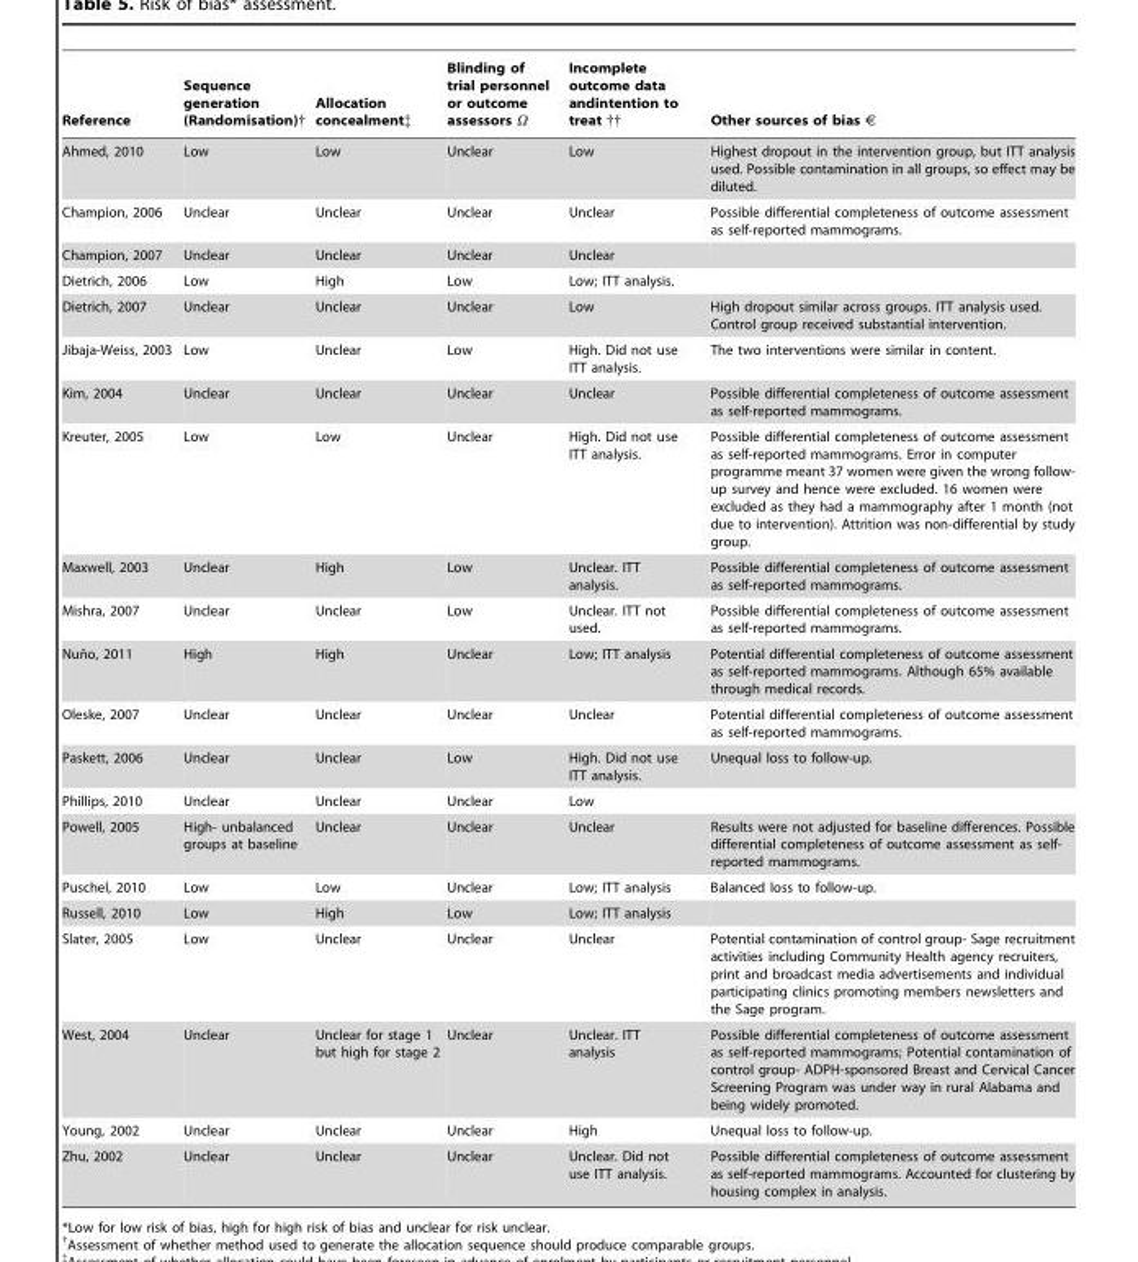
<table><thead><tr><td>Reference</td><td>Sequence generation (Randomisation)†</td><td>Allocation concealment‡</td><td>Blinding of trial personnel or outcome assessors Ω</td><td>Incomplete outcome data andintention to treat ††</td><td>Other sources of bias €</td></tr></thead><tbody><tr><td>Ahmed, 2010</td><td>Low</td><td>Low</td><td>Unclear</td><td>Low</td><td>Highest dropout in the intervention group, but ITT analysis used. Possible contamination in all groups, so effect may be diluted.</td></tr><tr><td>Champion, 2006</td><td>Unclear</td><td>Unclear</td><td>Unclear</td><td>Unclear</td><td>Possible differential completeness of outcome assessment as self-reported mammograms.</td></tr><tr><td>Champion, 2007</td><td>Unclear</td><td>Unclear</td><td>Unclear</td><td>Unclear</td><td></td></tr><tr><td>Dietrich, 2006</td><td>Low</td><td>High</td><td>Low</td><td>Low; ITT analysis.</td><td></td></tr><tr><td>Dietrich, 2007</td><td>Unclear</td><td>Unclear</td><td>Unclear</td><td>Low</td><td>High dropout similar across groups. ITT analysis used. Control group received substantial intervention.</td></tr><tr><td>Jibaja-Weiss, 2003</td><td>Low</td><td>Unclear</td><td>Low</td><td>High. Did not use ITT analysis.</td><td>The two interventions were similar in content.</td></tr><tr><td>Kim, 2004</td><td>Unclear</td><td>Unclear</td><td>Unclear</td><td>Unclear</td><td>Possible differential completeness of outcome assessment as self-reported mammograms.</td></tr><tr><td>Kreuter, 2005</td><td>Low</td><td>Low</td><td>Unclear</td><td>High. Did not use ITT analysis.</td><td>Possible differential completeness of outcome assessment as self-reported mammograms. Error in computer programme meant 37 women were given the wrong follow- up survey and hence were excluded. 16 women were excluded as they had a mammography after 1 month (not due to intervention). Attrition was non-differential by study group.</td></tr><tr><td>Maxwell, 2003</td><td>Unclear</td><td>High</td><td>Low</td><td>Unclear. ITT analysis.</td><td>Possible differential completeness of outcome assessment as self-reported mammograms.</td></tr><tr><td>Mishra, 2007</td><td>Unclear</td><td>Unclear</td><td>Low</td><td>Unclear. ITT not used.</td><td>Possible differential completeness of outcome assessment as self-reported mammograms.</td></tr><tr><td>Nun˜o, 2011</td><td>High</td><td>High</td><td>Unclear</td><td>Low; ITT analysis</td><td>Potential differential completeness of outcome assessment as self-reported mammograms. Although 65% available through medical records.</td></tr><tr><td>Oleske, 2007</td><td>Unclear</td><td>Unclear</td><td>Unclear</td><td>Unclear</td><td>Potential differential completeness of outcome assessment as self-reported mammograms.</td></tr><tr><td>Paskett, 2006</td><td>Unclear</td><td>Unclear</td><td>Low</td><td>High. Did not use ITT analysis.</td><td>Unequal loss to follow-up.</td></tr><tr><td>Phillips, 2010</td><td>Unclear</td><td>Unclear</td><td>Unclear</td><td>Low</td><td></td></tr><tr><td>Powell, 2005</td><td>High- unbalanced groups at baseline</td><td>Unclear</td><td>Unclear</td><td>Unclear</td><td>Results were not adjusted for baseline differences. Possible differential completeness of outcome assessment as self- reported mammograms.</td></tr><tr><td>Puschel, 2010</td><td>Low</td><td>Low</td><td>Unclear</td><td>Low; ITT analysis</td><td>Balanced loss to follow-up.</td></tr><tr><td>Russell, 2010</td><td>Low</td><td>High</td><td>Low</td><td>Low; ITT analysis</td><td></td></tr><tr><td>Slater, 2005</td><td>Low</td><td>Unclear</td><td>Unclear</td><td>Unclear</td><td>Potential contamination of control group- Sage recruitment activities including Community Health agency recruiters, print and broadcast media advertisements and individual participating clinics promoting members newsletters and the Sage program.</td></tr><tr><td>West, 2004</td><td>Unclear</td><td>Unclear for stage 1 but high for stage 2</td><td>Unclear</td><td>Unclear. ITT analysis</td><td>Possible differential completeness of outcome assessment as self-reported mammograms; Potential contamination of control group- ADPH-sponsored Breast and Cervical Cancer Screening Program was under way in rural Alabama and being widely promoted.</td></tr><tr><td>Young, 2002</td><td>Unclear</td><td>Unclear</td><td>Unclear</td><td>High</td><td>Unequal loss to follow-up.</td></tr><tr><td>Zhu, 2002</td><td>Unclear</td><td>Unclear</td><td>Unclear</td><td>Unclear. Did not use ITT analysis.</td><td>Possible differential completeness of outcome assessment as self-reported mammograms. Accounted for clustering by housing complex in analysis.</td></tr></tbody></table>